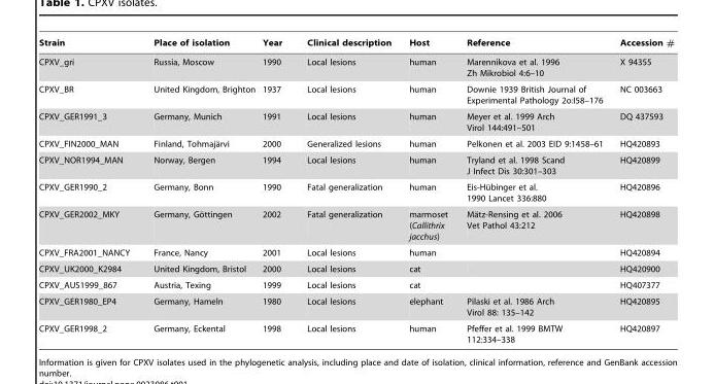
<table><thead><tr><td>Strain</td><td>Place of isolation</td><td>Year</td><td>Clinical description</td><td>Host</td><td>Reference</td><td>Accession #</td></tr></thead><tbody><tr><td>CPXV_gri</td><td>Russia, Moscow</td><td>1990</td><td>Local lesions</td><td>human</td><td>Marennikova et al. 1996 Zh Mikrobiol 4:6–10</td><td>X 94355</td></tr><tr><td>CPXV_BR</td><td>United Kingdom, Brighton</td><td>1937</td><td>Local lesions</td><td>human</td><td>Downie 1939 British Journal of Experimental Pathology 2o:I58–176</td><td>NC 003663</td></tr><tr><td>CPXV_GER1991_3</td><td>Germany, Munich</td><td>1991</td><td>Local lesions</td><td>human</td><td>Meyer et al. 1999 Arch Virol 144:491–501</td><td>DQ 437593</td></tr><tr><td>CPXV_FIN2000_MAN</td><td>Finland, Tohmaja¨rvi</td><td>2000</td><td>Generalized lesions</td><td>human</td><td>Pelkonen et al. 2003 EID 9:1458–61</td><td>HQ420893</td></tr><tr><td>CPXV_NOR1994_MAN</td><td>Norway, Bergen</td><td>1994</td><td>Local lesions</td><td>human</td><td>Tryland et al. 1998 Scand J Infect Dis 30:301–303</td><td>HQ420899</td></tr><tr><td>CPXV_GER1990_2</td><td>Germany, Bonn</td><td>1990</td><td>Fatal generalization</td><td>human</td><td>Eis-Hu¨binger et al. 1990 Lancet 336:880</td><td>HQ420896</td></tr><tr><td>CPXV_GER2002_MKY</td><td>Germany, Go¨ttingen</td><td>2002</td><td>Fatal generalization</td><td>marmoset (Callithrix jacchus)</td><td>Ma¨tz-Rensing et al. 2006 Vet Pathol 43:212</td><td>HQ420898</td></tr><tr><td>CPXV_FRA2001_NANCY</td><td>France, Nancy</td><td>2001</td><td>Local lesions</td><td>human</td><td></td><td>HQ420894</td></tr><tr><td>CPXV_UK2000_K2984</td><td>United Kingdom, Bristol</td><td>2000</td><td>Local lesions</td><td>cat</td><td></td><td>HQ420900</td></tr><tr><td>CPXV_AUS1999_867</td><td>Austria, Texing</td><td>1999</td><td>Local lesions</td><td>cat</td><td></td><td>HQ407377</td></tr><tr><td>CPXV_GER1980_EP4</td><td>Germany, Hameln</td><td>1980</td><td>Local lesions</td><td>elephant</td><td>Pilaski et al. 1986 Arch Virol 88: 135–142</td><td>HQ420895</td></tr><tr><td>CPXV_GER1998_2</td><td>Germany, Eckental</td><td>1998</td><td>Local lesions</td><td>human</td><td>Pfeffer et al. 1999 BMTW 112:334–338</td><td>HQ420897</td></tr></tbody></table>